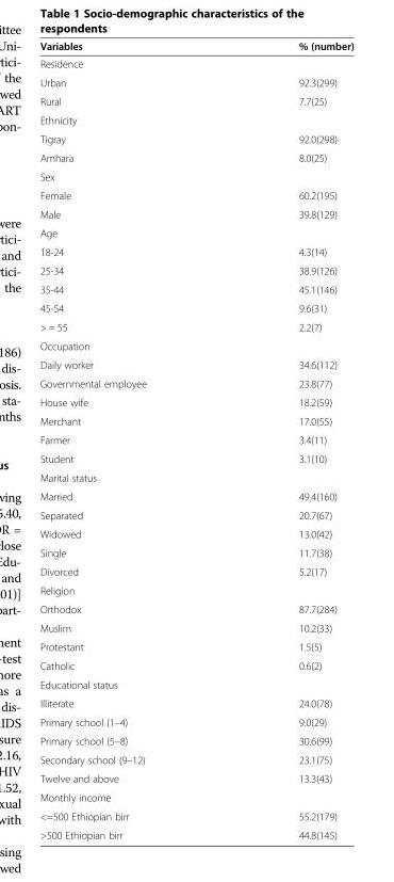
<table><thead><tr><td>Variables</td><td>% (number)</td></tr></thead><tbody><tr><td colspan="2">Residence</td></tr><tr><td>Urban</td><td>92.3(299)</td></tr><tr><td>Rural</td><td>7.7(25)</td></tr><tr><td colspan="2">Ethnicity</td></tr><tr><td>Tigray</td><td>92.0(298)</td></tr><tr><td>Amhara</td><td>8.0(25)</td></tr><tr><td colspan="2">Sex</td></tr><tr><td>Female</td><td>60.2(195)</td></tr><tr><td>Male</td><td>39.8(129)</td></tr><tr><td colspan="2">Age</td></tr><tr><td>18-24</td><td>4.3(14)</td></tr><tr><td>25-34</td><td>38.9(126)</td></tr><tr><td>35-44</td><td>45.1(146)</td></tr><tr><td>45-54</td><td>9.6(31)</td></tr><tr><td>&gt; = 55</td><td>2.2(7)</td></tr><tr><td colspan="2">Occupation</td></tr><tr><td>Daily worker</td><td>34.6(112)</td></tr><tr><td>Governmental employee</td><td>23.8(77)</td></tr><tr><td>House wife</td><td>18.2(59)</td></tr><tr><td>Merchant</td><td>17.0(55)</td></tr><tr><td>Farmer</td><td>3.4(11)</td></tr><tr><td>Student</td><td>3.1(10)</td></tr><tr><td colspan="2">Marital status</td></tr><tr><td>Married</td><td>49.4(160)</td></tr><tr><td>Separated</td><td>20.7(67)</td></tr><tr><td>Widowed</td><td>13.0(42)</td></tr><tr><td>Single</td><td>11.7(38)</td></tr><tr><td>Divorced</td><td>5.2(17)</td></tr><tr><td colspan="2">Religion</td></tr><tr><td>Orthodox</td><td>87.7(284)</td></tr><tr><td>Muslim</td><td>10.2(33)</td></tr><tr><td>Protestant</td><td>1.5(5)</td></tr><tr><td>Catholic</td><td>0.6(2)</td></tr><tr><td colspan="2">Educational status</td></tr><tr><td>Illiterate</td><td>24.0(78)</td></tr><tr><td>Primary school (1–4)</td><td>9.0(29)</td></tr><tr><td>Primary school (5–8)</td><td>30.6(99)</td></tr><tr><td>Secondary school (9–12)</td><td>23.1(75)</td></tr><tr><td>Twelve and above</td><td>13.3(43)</td></tr><tr><td colspan="2">Monthly income</td></tr><tr><td>&lt;=500 Ethiopian birr</td><td>55.2(179)</td></tr><tr><td>&gt;500 Ethiopian birr</td><td>44.8(145)</td></tr></tbody></table>